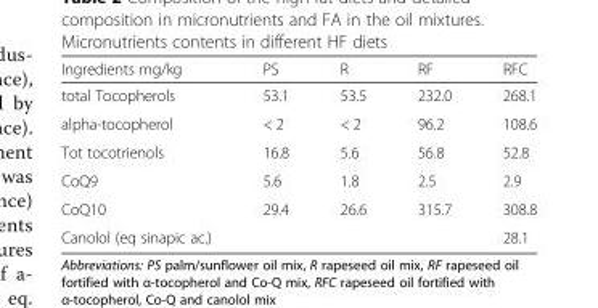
<table><thead><tr><td>Ingredients mg/kg</td><td>PS</td><td>R</td><td>RF</td><td>RFC</td></tr></thead><tbody><tr><td>total Tocopherols</td><td>53.1</td><td>53.5</td><td>232.0</td><td>268.1</td></tr><tr><td>alpha-tocopherol</td><td>&lt; 2</td><td>&lt; 2</td><td>96.2</td><td>108.6</td></tr><tr><td>Tot tocotrienols</td><td>16.8</td><td>5.6</td><td>56.8</td><td>52.8</td></tr><tr><td>CoQ9</td><td>5.6</td><td>1.8</td><td>2.5</td><td>2.9</td></tr><tr><td>CoQ10</td><td>29.4</td><td>26.6</td><td>315.7</td><td>308.8</td></tr><tr><td>Canolol (eq sinapic ac.)</td><td></td><td></td><td></td><td>28.1</td></tr></tbody></table>